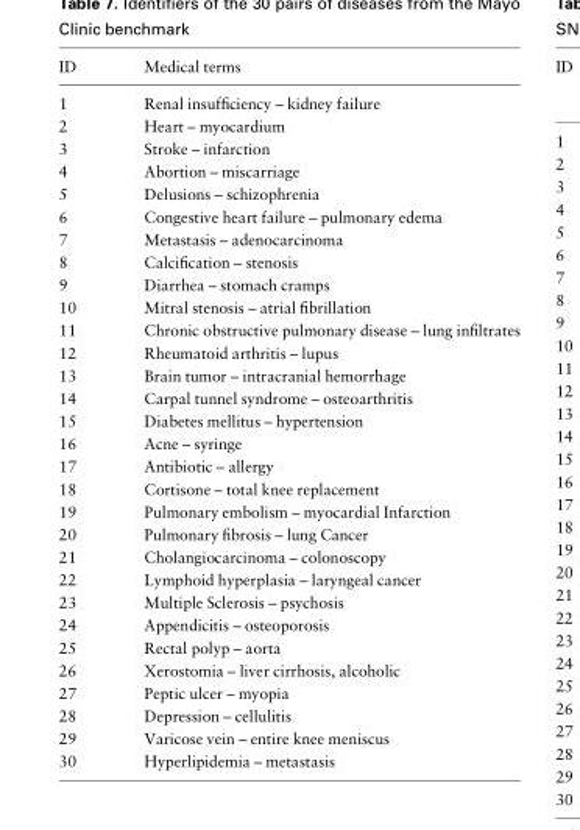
<table><thead><tr><td>ID</td><td>Medical terms</td></tr></thead><tbody><tr><td>1</td><td>Renal insufficiency – kidney failure</td></tr><tr><td>2</td><td>Heart – myocardium</td></tr><tr><td>3</td><td>Stroke – infarction</td></tr><tr><td>4</td><td>Abortion – miscarriage</td></tr><tr><td>5</td><td>Delusions – schizophrenia</td></tr><tr><td>6</td><td>Congestive heart failure – pulmonary edema</td></tr><tr><td>7</td><td>Metastasis – adenocarcinoma</td></tr><tr><td>8</td><td>Calcification – stenosis</td></tr><tr><td>9</td><td>Diarrhea – stomach cramps</td></tr><tr><td>10</td><td>Mitral stenosis – atrial fibrillation</td></tr><tr><td>11</td><td>Chronic obstructive pulmonary disease – lung infiltrates</td></tr><tr><td>12</td><td>Rheumatoid arthritis – lupus</td></tr><tr><td>13</td><td>Brain tumor – intracranial hemorrhage</td></tr><tr><td>14</td><td>Carpal tunnel syndrome – osteoarthritis</td></tr><tr><td>15</td><td>Diabetes mellitus – hypertension</td></tr><tr><td>16</td><td>Acne – syringe</td></tr><tr><td>17</td><td>Antibiotic – allergy</td></tr><tr><td>18</td><td>Cortisone – total knee replacement</td></tr><tr><td>19</td><td>Pulmonary embolism – myocardial Infarction</td></tr><tr><td>20</td><td>Pulmonary fibrosis – lung Cancer</td></tr><tr><td>21</td><td>Cholangiocarcinoma – colonoscopy</td></tr><tr><td>22</td><td>Lymphoid hyperplasia – laryngeal cancer</td></tr><tr><td>23</td><td>Multiple Sclerosis – psychosis</td></tr><tr><td>24</td><td>Appendicitis – osteoporosis</td></tr><tr><td>25</td><td>Rectal polyp – aorta</td></tr><tr><td>26</td><td>Xerostomia – liver cirrhosis, alcoholic</td></tr><tr><td>27</td><td>Peptic ulcer – myopia</td></tr><tr><td>28</td><td>Depression – cellulitis</td></tr><tr><td>29</td><td>Varicose vein – entire knee meniscus</td></tr><tr><td>30</td><td>Hyperlipidemia – metastasis</td></tr></tbody></table>